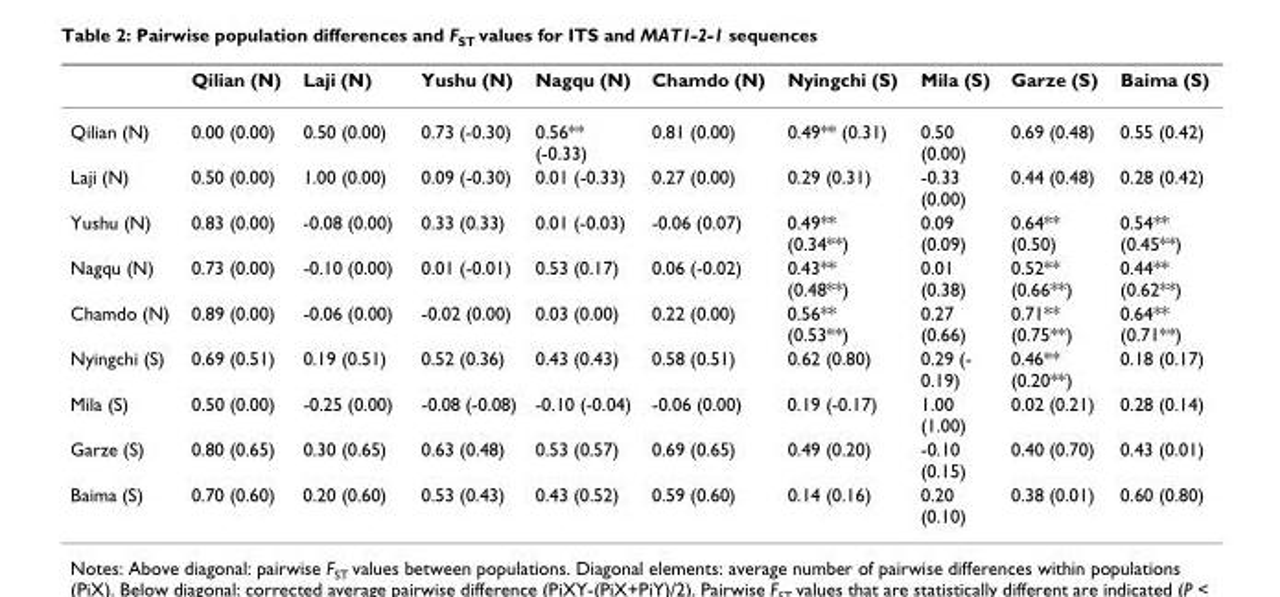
<table><thead><tr><td></td><td>Qilian (N)</td><td>Laji (N)</td><td>Yushu (N)</td><td>Nagqu (N)</td><td>Chamdo (N)</td><td>Nyingchi (S)</td><td>Mila (S)</td><td>Garze (S)</td><td>Baima (S)</td></tr></thead><tbody><tr><td>Qilian (N)</td><td>0.00 (0.00)</td><td>0.50 (0.00)</td><td>0.73 (-0.30)</td><td>0.56** (-0.33)</td><td>0.81 (0.00)</td><td>0.49** (0.31)</td><td>0.50 (0.00)</td><td>0.69 (0.48)</td><td>0.55 (0.42)</td></tr><tr><td>Laji (N)</td><td>0.50 (0.00)</td><td>1.00 (0.00)</td><td>0.09 (-0.30)</td><td>0.01 (-0.33)</td><td>0.27 (0.00)</td><td>0.29 (0.31)</td><td>-0.33 (0.00)</td><td>0.44 (0.48)</td><td>0.28 (0.42)</td></tr><tr><td>Yushu (N)</td><td>0.83 (0.00)</td><td>-0.08 (0.00)</td><td>0.33 (0.33)</td><td>0.01 (-0.03)</td><td>-0.06 (0.07)</td><td>0.49** (0.34**)</td><td>0.09 (0.09)</td><td>0.64** (0.50)</td><td>0.54** (0.45**)</td></tr><tr><td>Nagqu (N)</td><td>0.73 (0.00)</td><td>-0.10 (0.00)</td><td>0.01 (-0.01)</td><td>0.53 (0.17)</td><td>0.06 (-0.02)</td><td>0.43** (0.48**)</td><td>0.01 (0.38)</td><td>0.52** (0.66**)</td><td>0.44** (0.62**)</td></tr><tr><td>Chamdo (N)</td><td>0.89 (0.00)</td><td>-0.06 (0.00)</td><td>-0.02 (0.00)</td><td>0.03 (0.00)</td><td>0.22 (0.00)</td><td>0.56** (0.53**)</td><td>0.27 (0.66)</td><td>0.71** (0.75**)</td><td>0.64** (0.71**)</td></tr><tr><td>Nyingchi (S)</td><td>0.69 (0.51)</td><td>0.19 (0.51)</td><td>0.52 (0.36)</td><td>0.43 (0.43)</td><td>0.58 (0.51)</td><td>0.62 (0.80)</td><td>0.29 (- 0.19)</td><td>0.46** (0.20**)</td><td>0.18 (0.17)</td></tr><tr><td>Mila (S)</td><td>0.50 (0.00)</td><td>-0.25 (0.00)</td><td>-0.08 (-0.08)</td><td>-0.10 (-0.04)</td><td>-0.06 (0.00)</td><td>0.19 (-0.17)</td><td>1.00 (1.00)</td><td>0.02 (0.21)</td><td>0.28 (0.14)</td></tr><tr><td>Garze (S)</td><td>0.80 (0.65)</td><td>0.30 (0.65)</td><td>0.63 (0.48)</td><td>0.53 (0.57)</td><td>0.69 (0.65)</td><td>0.49 (0.20)</td><td>-0.10 (0.15)</td><td>0.40 (0.70)</td><td>0.43 (0.01)</td></tr><tr><td>Baima (S)</td><td>0.70 (0.60)</td><td>0.20 (0.60)</td><td>0.53 (0.43)</td><td>0.43 (0.52)</td><td>0.59 (0.60)</td><td>0.14 (0.16)</td><td>0.20 (0.10)</td><td>0.38 (0.01)</td><td>0.60 (0.80)</td></tr></tbody></table>